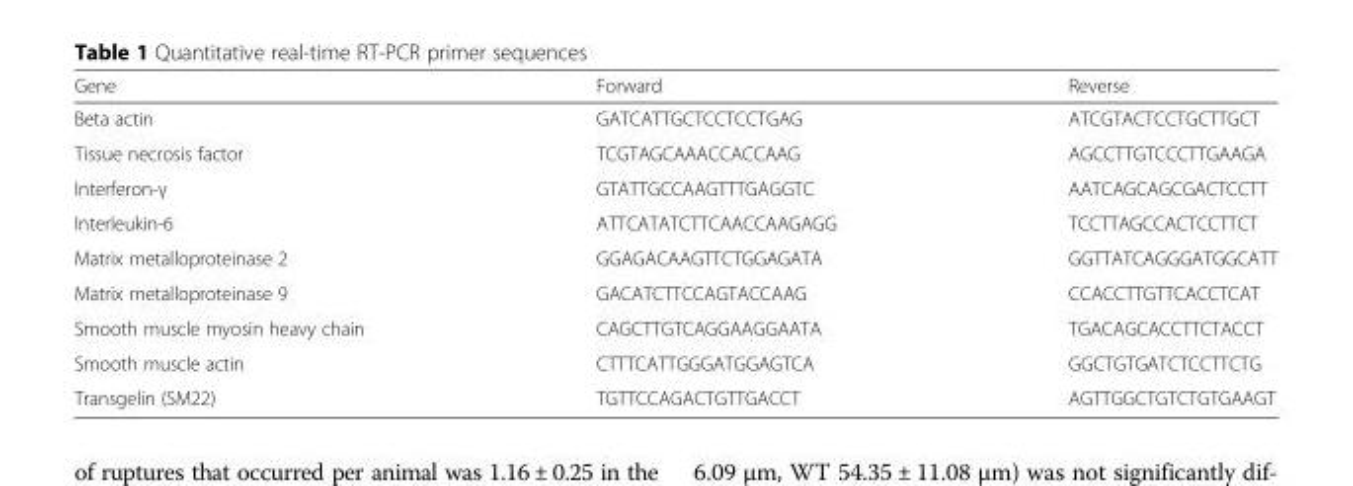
<table><thead><tr><td>Gene</td><td>Forward</td><td>Reverse</td></tr></thead><tbody><tr><td>Beta actin</td><td>GATCATTGCTCCTCCTGAG</td><td>ATCGTACTCCTGCTTGCT</td></tr><tr><td>Tissue necrosis factor</td><td>TCGTAGCAAACCACCAAG</td><td>AGCCTTGTCCCTTGAAGA</td></tr><tr><td>Interferon-γ</td><td>GTATTGCCAAGTTTGAGGTC</td><td>AATCAGCAGCGACTCCTT</td></tr><tr><td>Interleukin-6</td><td>ATTCATATCTTCAACCAAGAGG</td><td>TCCTTAGCCACTCCTTCT</td></tr><tr><td>Matrix metalloproteinase 2</td><td>GGAGACAAGTTCTGGAGATA</td><td>GGTTATCAGGGATGGCATT</td></tr><tr><td>Matrix metalloproteinase 9</td><td>GACATCTTCCAGTACCAAG</td><td>CCACCTTGTTCACCTCAT</td></tr><tr><td>Smooth muscle myosin heavy chain</td><td>CAGCTTGTCAGGAAGGAATA</td><td>TGACAGCACCTTCTACCT</td></tr><tr><td>Smooth muscle actin</td><td>CTTTCATTGGGATGGAGTCA</td><td>GGCTGTGATCTCCTTCTG</td></tr><tr><td>Transgelin (SM22)</td><td>TGTTCCAGACTGTTGACCT</td><td>AGTTGGCTGTCTGTGAAGT</td></tr></tbody></table>